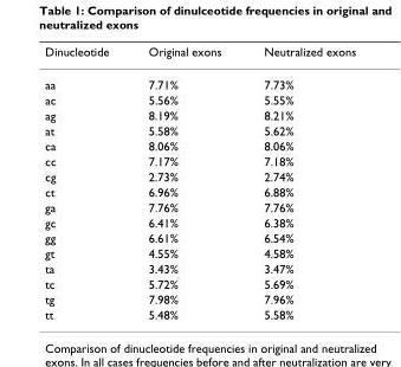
<table><thead><tr><td>Dinucleotide</td><td>Original exons</td><td>Neutralized exons</td></tr></thead><tbody><tr><td>aa</td><td>7.71%</td><td>7.73%</td></tr><tr><td>ac</td><td>5.56%</td><td>5.55%</td></tr><tr><td>ag</td><td>8.19%</td><td>8.21%</td></tr><tr><td>at</td><td>5.58%</td><td>5.62%</td></tr><tr><td>ca</td><td>8.06%</td><td>8.06%</td></tr><tr><td>cc</td><td>7.17%</td><td>7.18%</td></tr><tr><td>cg</td><td>2.73%</td><td>2.74%</td></tr><tr><td>ct</td><td>6.96%</td><td>6.88%</td></tr><tr><td>ga</td><td>7.76%</td><td>7.76%</td></tr><tr><td>gc</td><td>6.41%</td><td>6.38%</td></tr><tr><td>gg</td><td>6.61%</td><td>6.54%</td></tr><tr><td>gt</td><td>4.55%</td><td>4.58%</td></tr><tr><td>ta</td><td>3.43%</td><td>3.47%</td></tr><tr><td>tc</td><td>5.72%</td><td>5.69%</td></tr><tr><td>tg</td><td>7.98%</td><td>7.96%</td></tr><tr><td>tt</td><td>5.48%</td><td>5.58%</td></tr></tbody></table>